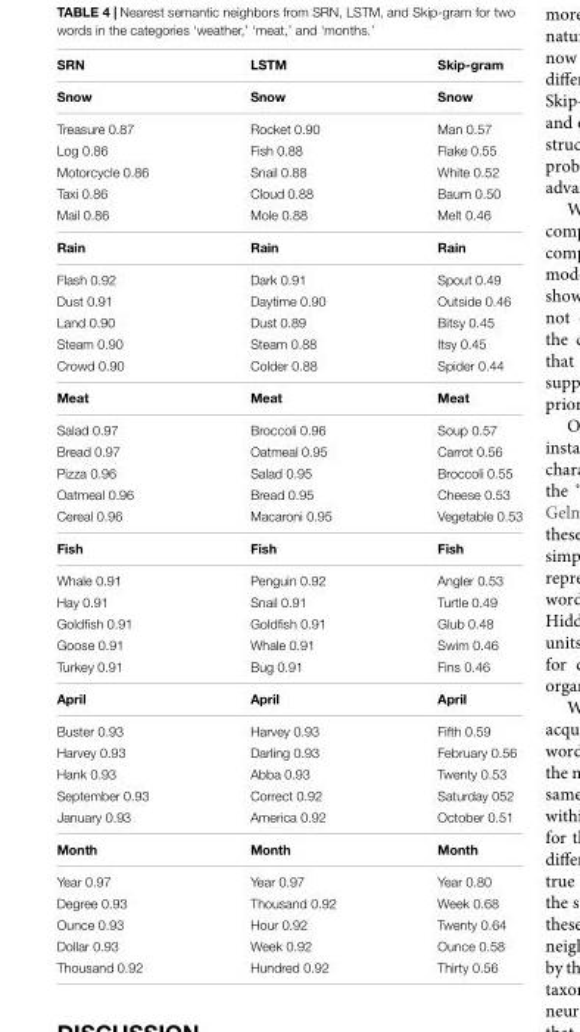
<table><thead><tr><td>SRN</td><td>LSTM</td><td>Skip-gram</td></tr></thead><tbody><tr><td>Snow</td><td>Snow</td><td>Snow</td></tr><tr><td>Treasure 0.87</td><td>Rocket 0.90</td><td>Man 0.57</td></tr><tr><td>Log 0.86</td><td>Fish 0.88</td><td>Flake 0.55</td></tr><tr><td>Motorcycle 0.86</td><td>Snail 0.88</td><td>White 0.52</td></tr><tr><td>Taxi 0.86</td><td>Cloud 0.88</td><td>Baum 0.50</td></tr><tr><td>Mail 0.86</td><td>Mole 0.88</td><td>Melt 0.46</td></tr><tr><td>Rain</td><td>Rain</td><td>Rain</td></tr><tr><td>Flash 0.92</td><td>Dark 0.91</td><td>Spout 0.49</td></tr><tr><td>Dust 0.91</td><td>Daytime 0.90</td><td>Outside 0.46</td></tr><tr><td>Land 0.90</td><td>Dust 0.89</td><td>Bitsy 0.45</td></tr><tr><td>Steam 0.90</td><td>Steam 0.88</td><td>Itsy 0.45</td></tr><tr><td>Crowd 0.90</td><td>Colder 0.88</td><td>Spider 0.44</td></tr><tr><td>Meat</td><td>Meat</td><td>Meat</td></tr><tr><td>Salad 0.97</td><td>Broccoli 0.96</td><td>Soup 0.57</td></tr><tr><td>Bread 0.97</td><td>Oatmeal 0.95</td><td>Carrot 0.56</td></tr><tr><td>Pizza 0.96</td><td>Salad 0.95</td><td>Broccoli 0.55</td></tr><tr><td>Oatmeal 0.96</td><td>Bread 0.95</td><td>Cheese 0.53</td></tr><tr><td>Cereal 0.96</td><td>Macaroni 0.95</td><td>Vegetable 0.53</td></tr><tr><td>Fish</td><td>Fish</td><td>Fish</td></tr><tr><td>Whale 0.91</td><td>Penguin 0.92</td><td>Angler 0.53</td></tr><tr><td>Hay 0.91</td><td>Snail 0.91</td><td>Turtle 0.49</td></tr><tr><td>Goldfish 0.91</td><td>Goldfish 0.91</td><td>Glub 0.48</td></tr><tr><td>Goose 0.91</td><td>Whale 0.91</td><td>Swim 0.46</td></tr><tr><td>Turkey 0.91</td><td>Bug 0.91</td><td>Fins 0.46</td></tr><tr><td>April</td><td>April</td><td>April</td></tr><tr><td>Buster 0.93</td><td>Harvey 0.93</td><td>Fifth 0.59</td></tr><tr><td>Harvey 0.93</td><td>Darling 0.93</td><td>February 0.56</td></tr><tr><td>Hank 0.93</td><td>Abba 0.93</td><td>Twenty 0.53</td></tr><tr><td>September 0.93</td><td>Correct 0.92</td><td>Saturday 052</td></tr><tr><td>January 0.93</td><td>America 0.92</td><td>October 0.51</td></tr><tr><td>Month</td><td>Month</td><td>Month</td></tr><tr><td>Year 0.97</td><td>Year 0.97</td><td>Year 0.80</td></tr><tr><td>Degree 0.93</td><td>Thousand 0.92</td><td>Week 0.68</td></tr><tr><td>Ounce 0.93</td><td>Hour 0.92</td><td>Twenty 0.64</td></tr><tr><td>Dollar 0.93</td><td>Week 0.92</td><td>Ounce 0.58</td></tr><tr><td>Thousand 0.92</td><td>Hundred 0.92</td><td>Thirty 0.56</td></tr></tbody></table>